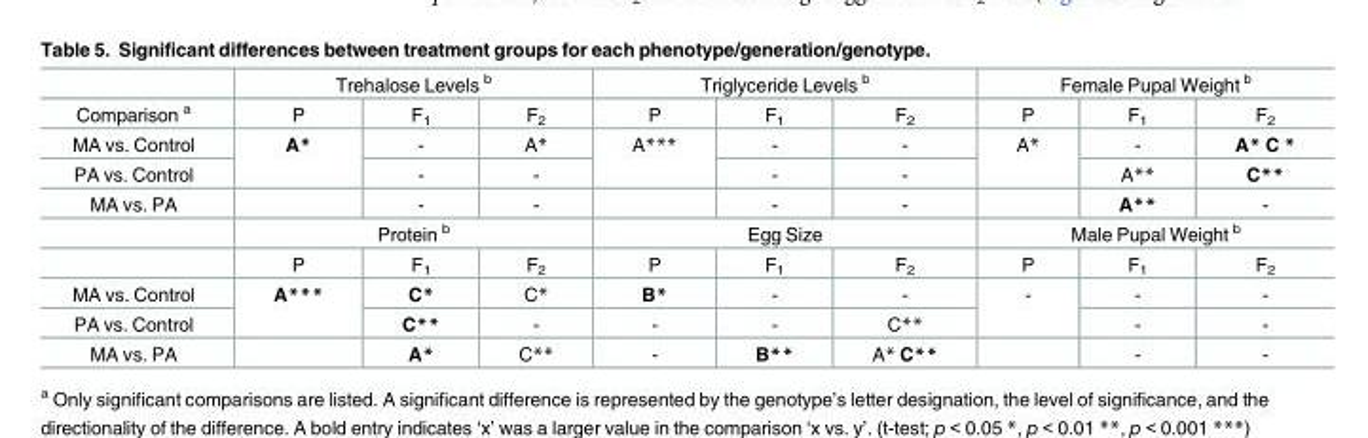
<table><thead><tr><td rowspan="2">Comparison <sup>a</sup></td><td colspan="3">Trehalose Levels <sup>b</sup></td><td colspan="3">Triglyceride Levels <sup>b</sup></td><td colspan="3">Female Pupal Weight <sup>b</sup></td></tr><tr><td>P</td><td>F<sub>1</sub></td><td>F<sub>2</sub></td><td>P</td><td>F<sub>1</sub></td><td>F<sub>2</sub></td><td>P</td><td>F<sub>1</sub></td><td>F<sub>2</sub></td></tr></thead><tbody><tr><td>MA vs. Control</td><td rowspan="2">A*</td><td>-</td><td>A*</td><td rowspan="2">A***</td><td>-</td><td>-</td><td rowspan="2">A*</td><td>-</td><td>A* C *</td></tr><tr><td>PA vs. Control</td><td>-</td><td>-</td><td>-</td><td>-</td><td>A**</td><td>C**</td></tr><tr><td rowspan="3">MA vs. PA</td><td></td><td>-</td><td>-</td><td></td><td>-</td><td>-</td><td></td><td>A**</td><td>-</td></tr><tr><td colspan="3">Protein <sup>b</sup></td><td colspan="3">Egg Size</td><td colspan="3">Male Pupal Weight <sup>b</sup></td></tr><tr><td>P</td><td>F<sub>1</sub></td><td>F<sub>2</sub></td><td>P</td><td>F<sub>1</sub></td><td>F<sub>2</sub></td><td>P</td><td>F<sub>1</sub></td><td>F<sub>2</sub></td></tr><tr><td>MA vs. Control</td><td rowspan="2">A***</td><td>C*</td><td>C*</td><td>B*</td><td>-</td><td>-</td><td rowspan="2">-</td><td>-</td><td>-</td></tr><tr><td>PA vs. Control</td><td>C**</td><td>-</td><td>-</td><td>-</td><td>C**</td><td>-</td><td>-</td></tr><tr><td>MA vs. PA</td><td></td><td>A*</td><td>C**</td><td>-</td><td>B**</td><td>A* C**</td><td></td><td>-</td><td>-</td></tr></tbody></table>